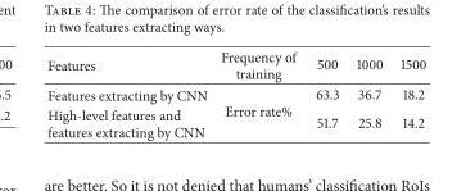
<table><thead><tr><td>Features</td><td>Frequency of training</td><td>500</td><td>1000</td><td>1500</td></tr></thead><tbody><tr><td>Features extracting by CNN</td><td rowspan="2">Error rate%</td><td>63.3</td><td>36.7</td><td>18.2</td></tr><tr><td>High-level features and features extracting by CNN</td><td>51.7</td><td>25.8</td><td>14.2</td></tr></tbody></table>